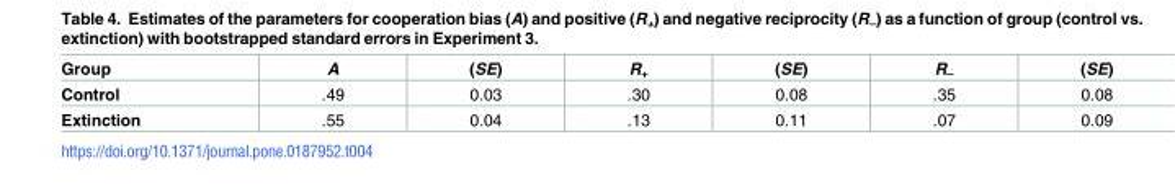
<table><thead><tr><td>Group</td><td>A</td><td>(SE)</td><td>R<sub>+</sub></td><td>(SE)</td><td>R<sub>–</sub></td><td>(SE)</td></tr></thead><tbody><tr><td>Control</td><td>.49</td><td>0.03</td><td>.30</td><td>0.08</td><td>.35</td><td>0.08</td></tr><tr><td>Extinction</td><td>.55</td><td>0.04</td><td>.13</td><td>0.11</td><td>.07</td><td>0.09</td></tr></tbody></table>